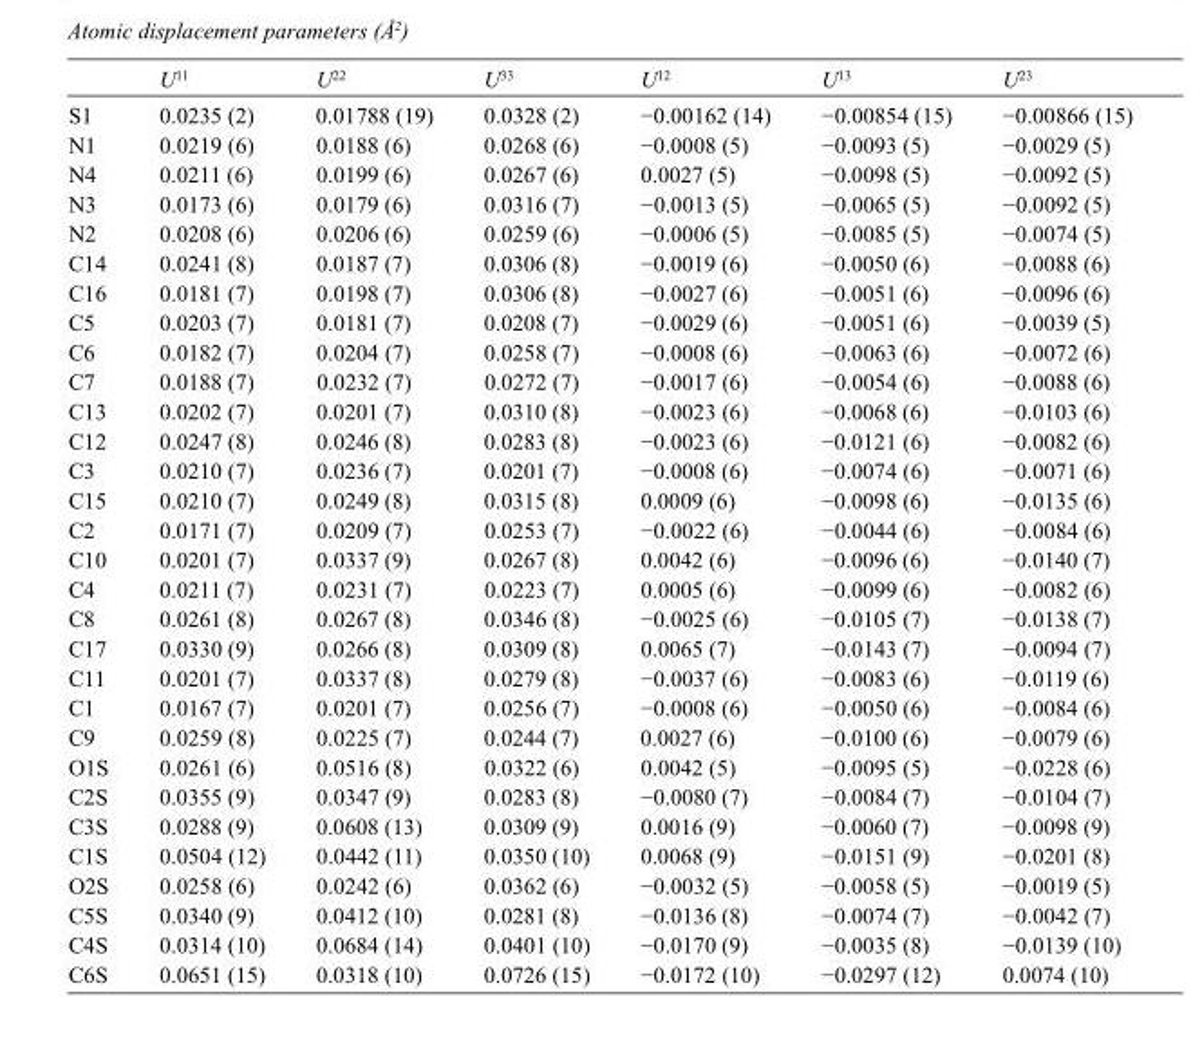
<table><thead><tr><td></td><td>U<sup>11</sup></td><td>U<sup>22</sup></td><td>U<sup>33</sup></td><td>U<sup>12</sup></td><td>U<sup>13</sup></td><td>U<sup>23</sup></td></tr></thead><tbody><tr><td>S1</td><td>0.0235 (2)</td><td>0.01788 (19)</td><td>0.0328 (2)</td><td>−0.00162 (14)</td><td>−0.00854 (15)</td><td>−0.00866 (15)</td></tr><tr><td>N1</td><td>0.0219 (6)</td><td>0.0188 (6)</td><td>0.0268 (6)</td><td>−0.0008 (5)</td><td>−0.0093 (5)</td><td>−0.0029 (5)</td></tr><tr><td>N4</td><td>0.0211 (6)</td><td>0.0199 (6)</td><td>0.0267 (6)</td><td>0.0027 (5)</td><td>−0.0098 (5)</td><td>−0.0092 (5)</td></tr><tr><td>N3</td><td>0.0173 (6)</td><td>0.0179 (6)</td><td>0.0316 (7)</td><td>−0.0013 (5)</td><td>−0.0065 (5)</td><td>−0.0092 (5)</td></tr><tr><td>N2</td><td>0.0208 (6)</td><td>0.0206 (6)</td><td>0.0259 (6)</td><td>−0.0006 (5)</td><td>−0.0085 (5)</td><td>−0.0074 (5)</td></tr><tr><td>C14</td><td>0.0241 (8)</td><td>0.0187 (7)</td><td>0.0306 (8)</td><td>−0.0019 (6)</td><td>−0.0050 (6)</td><td>−0.0088 (6)</td></tr><tr><td>C16</td><td>0.0181 (7)</td><td>0.0198 (7)</td><td>0.0306 (8)</td><td>−0.0027 (6)</td><td>−0.0051 (6)</td><td>−0.0096 (6)</td></tr><tr><td>C5</td><td>0.0203 (7)</td><td>0.0181 (7)</td><td>0.0208 (7)</td><td>−0.0029 (6)</td><td>−0.0051 (6)</td><td>−0.0039 (5)</td></tr><tr><td>C6</td><td>0.0182 (7)</td><td>0.0204 (7)</td><td>0.0258 (7)</td><td>−0.0008 (6)</td><td>−0.0063 (6)</td><td>−0.0072 (6)</td></tr><tr><td>C7</td><td>0.0188 (7)</td><td>0.0232 (7)</td><td>0.0272 (7)</td><td>−0.0017 (6)</td><td>−0.0054 (6)</td><td>−0.0088 (6)</td></tr><tr><td>C13</td><td>0.0202 (7)</td><td>0.0201 (7)</td><td>0.0310 (8)</td><td>−0.0023 (6)</td><td>−0.0068 (6)</td><td>−0.0103 (6)</td></tr><tr><td>C12</td><td>0.0247 (8)</td><td>0.0246 (8)</td><td>0.0283 (8)</td><td>−0.0023 (6)</td><td>−0.0121 (6)</td><td>−0.0082 (6)</td></tr><tr><td>C3</td><td>0.0210 (7)</td><td>0.0236 (7)</td><td>0.0201 (7)</td><td>−0.0008 (6)</td><td>−0.0074 (6)</td><td>−0.0071 (6)</td></tr><tr><td>C15</td><td>0.0210 (7)</td><td>0.0249 (8)</td><td>0.0315 (8)</td><td>0.0009 (6)</td><td>−0.0098 (6)</td><td>−0.0135 (6)</td></tr><tr><td>C2</td><td>0.0171 (7)</td><td>0.0209 (7)</td><td>0.0253 (7)</td><td>−0.0022 (6)</td><td>−0.0044 (6)</td><td>−0.0084 (6)</td></tr><tr><td>C10</td><td>0.0201 (7)</td><td>0.0337 (9)</td><td>0.0267 (8)</td><td>0.0042 (6)</td><td>−0.0096 (6)</td><td>−0.0140 (7)</td></tr><tr><td>C4</td><td>0.0211 (7)</td><td>0.0231 (7)</td><td>0.0223 (7)</td><td>0.0005 (6)</td><td>−0.0099 (6)</td><td>−0.0082 (6)</td></tr><tr><td>C8</td><td>0.0261 (8)</td><td>0.0267 (8)</td><td>0.0346 (8)</td><td>−0.0025 (6)</td><td>−0.0105 (7)</td><td>−0.0138 (7)</td></tr><tr><td>C17</td><td>0.0330 (9)</td><td>0.0266 (8)</td><td>0.0309 (8)</td><td>0.0065 (7)</td><td>−0.0143 (7)</td><td>−0.0094 (7)</td></tr><tr><td>C11</td><td>0.0201 (7)</td><td>0.0337 (8)</td><td>0.0279 (8)</td><td>−0.0037 (6)</td><td>−0.0083 (6)</td><td>−0.0119 (6)</td></tr><tr><td>C1</td><td>0.0167 (7)</td><td>0.0201 (7)</td><td>0.0256 (7)</td><td>−0.0008 (6)</td><td>−0.0050 (6)</td><td>−0.0084 (6)</td></tr><tr><td>C9</td><td>0.0259 (8)</td><td>0.0225 (7)</td><td>0.0244 (7)</td><td>0.0027 (6)</td><td>−0.0100 (6)</td><td>−0.0079 (6)</td></tr><tr><td>O1S</td><td>0.0261 (6)</td><td>0.0516 (8)</td><td>0.0322 (6)</td><td>0.0042 (5)</td><td>−0.0095 (5)</td><td>−0.0228 (6)</td></tr><tr><td>C2S</td><td>0.0355 (9)</td><td>0.0347 (9)</td><td>0.0283 (8)</td><td>−0.0080 (7)</td><td>−0.0084 (7)</td><td>−0.0104 (7)</td></tr><tr><td>C3S</td><td>0.0288 (9)</td><td>0.0608 (13)</td><td>0.0309 (9)</td><td>0.0016 (9)</td><td>−0.0060 (7)</td><td>−0.0098 (9)</td></tr><tr><td>C1S</td><td>0.0504 (12)</td><td>0.0442 (11)</td><td>0.0350 (10)</td><td>0.0068 (9)</td><td>−0.0151 (9)</td><td>−0.0201 (8)</td></tr><tr><td>O2S</td><td>0.0258 (6)</td><td>0.0242 (6)</td><td>0.0362 (6)</td><td>−0.0032 (5)</td><td>−0.0058 (5)</td><td>−0.0019 (5)</td></tr><tr><td>C5S</td><td>0.0340 (9)</td><td>0.0412 (10)</td><td>0.0281 (8)</td><td>−0.0136 (8)</td><td>−0.0074 (7)</td><td>−0.0042 (7)</td></tr><tr><td>C4S</td><td>0.0314 (10)</td><td>0.0684 (14)</td><td>0.0401 (10)</td><td>−0.0170 (9)</td><td>−0.0035 (8)</td><td>−0.0139 (10)</td></tr><tr><td>C6S</td><td>0.0651 (15)</td><td>0.0318 (10)</td><td>0.0726 (15)</td><td>−0.0172 (10)</td><td>−0.0297 (12)</td><td>0.0074 (10)</td></tr></tbody></table>